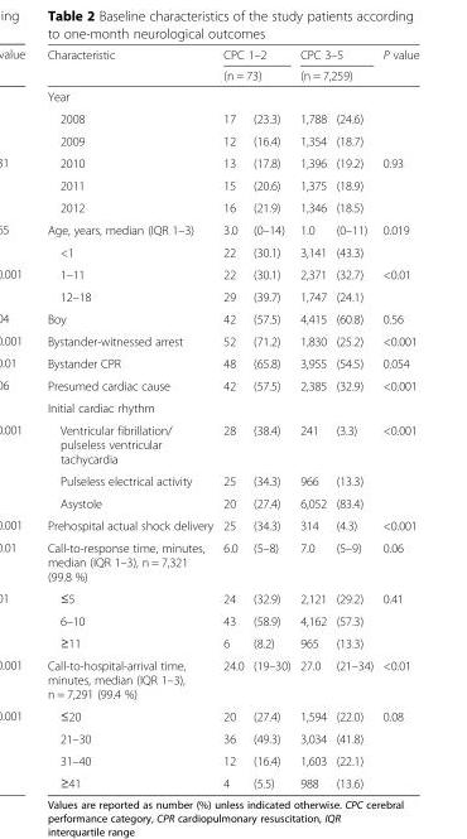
<table><thead><tr><td rowspan="3">Characteristic Year</td><td rowspan="2" colspan="2">CPC 1–2 (n = 73)</td><td rowspan="2" colspan="2">CPC 3–5 (n = 7,259)</td><td rowspan="3">P value</td></tr><tr></tr><tr><td></td><td></td><td></td><td></td></tr></thead><tbody><tr><td>2008</td><td>17</td><td>(23.3)</td><td>1,788</td><td>(24.6)</td><td></td></tr><tr><td>2009</td><td>12</td><td>(16.4)</td><td>1,354</td><td>(18.7)</td><td></td></tr><tr><td>2010</td><td>13</td><td>(17.8)</td><td>1,396</td><td>(19.2)</td><td>0.93</td></tr><tr><td>2011</td><td>15</td><td>(20.6)</td><td>1,375</td><td>(18.9)</td><td></td></tr><tr><td>2012</td><td>16</td><td>(21.9)</td><td>1,346</td><td>(18.5)</td><td></td></tr><tr><td>Age, years, median (IQR 1–3)</td><td>3.0</td><td>(0–14)</td><td>1.0</td><td>(0–11)</td><td>0.019</td></tr><tr><td>&lt;1</td><td>22</td><td>(30.1)</td><td>3,141</td><td>(43.3)</td><td></td></tr><tr><td>1–11</td><td>22</td><td>(30.1)</td><td>2,371</td><td>(32.7)</td><td>&lt;0.01</td></tr><tr><td>12–18</td><td>29</td><td>(39.7)</td><td>1,747</td><td>(24.1)</td><td></td></tr><tr><td>Boy</td><td>42</td><td>(57.5)</td><td>4,415</td><td>(60.8)</td><td>0.56</td></tr><tr><td>Bystander-witnessed arrest</td><td>52</td><td>(71.2)</td><td>1,830</td><td>(25.2)</td><td>&lt;0.001</td></tr><tr><td>Bystander CPR</td><td>48</td><td>(65.8)</td><td>3,955</td><td>(54.5)</td><td>0.054</td></tr><tr><td>Presumed cardiac cause</td><td>42</td><td>(57.5)</td><td>2,385</td><td>(32.9)</td><td>&lt;0.001</td></tr><tr><td colspan="6">Initial cardiac rhythm</td></tr><tr><td>Ventricular fibrillation/ pulseless ventricular tachycardia</td><td>28</td><td>(38.4)</td><td>241</td><td>(3.3)</td><td rowspan="3">&lt;0.001</td></tr><tr><td>Pulseless electrical activity</td><td>25</td><td>(34.3)</td><td>966</td><td>(13.3)</td></tr><tr><td>Asystole</td><td>20</td><td>(27.4)</td><td>6,052</td><td>(83.4)</td></tr><tr><td>Prehospital actual shock delivery</td><td>25</td><td>(34.3)</td><td>314</td><td>(4.3)</td><td>&lt;0.001</td></tr><tr><td>Call-to-response time, minutes, median (IQR 1–3), n = 7,321 (99.8 %)</td><td>6.0</td><td>(5–8)</td><td>7.0</td><td>(5–9)</td><td>0.06</td></tr><tr><td>≤5</td><td>24</td><td>(32.9)</td><td>2,121</td><td>(29.2)</td><td rowspan="3">0.41</td></tr><tr><td>6–10</td><td>43</td><td>(58.9)</td><td>4,162</td><td>(57.3)</td></tr><tr><td>≥11</td><td>6</td><td>(8.2)</td><td>965</td><td>(13.3)</td></tr><tr><td>Call-to-hospital-arrival time, minutes, median (IQR 1–3), n = 7,291 (99.4 %)</td><td>24.0</td><td>(19–30)</td><td>27.0</td><td>(21–34)</td><td>&lt;0.01</td></tr><tr><td>≤20</td><td>20</td><td>(27.4)</td><td>1,594</td><td>(22.0)</td><td rowspan="4">0.08</td></tr><tr><td>21–30</td><td>36</td><td>(49.3)</td><td>3,034</td><td>(41.8)</td></tr><tr><td>31–40</td><td>12</td><td>(16.4)</td><td>1,603</td><td>(22.1)</td></tr><tr><td>≥41</td><td>4</td><td>(5.5)</td><td>988</td><td>(13.6)</td></tr></tbody></table>